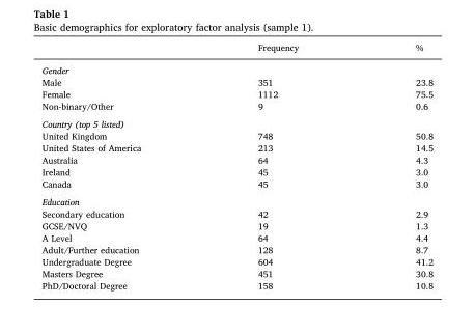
<table><thead><tr><td></td><td>Frequency</td><td>%</td></tr></thead><tbody><tr><td colspan="3">Gender</td></tr><tr><td>Male</td><td>351</td><td>23.8</td></tr><tr><td>Female</td><td>1112</td><td>75.5</td></tr><tr><td>Non-binary/Other</td><td>9</td><td>0.6</td></tr><tr><td colspan="3">Country (top 5 listed)</td></tr><tr><td>United Kingdom</td><td>748</td><td>50.8</td></tr><tr><td>United States of America</td><td>213</td><td>14.5</td></tr><tr><td>Australia</td><td>64</td><td>4.3</td></tr><tr><td>Ireland</td><td>45</td><td>3.0</td></tr><tr><td>Canada</td><td>45</td><td>3.0</td></tr><tr><td colspan="3">Education</td></tr><tr><td>Secondary education</td><td>42</td><td>2.9</td></tr><tr><td>GCSE/NVQ</td><td>19</td><td>1.3</td></tr><tr><td>A Level</td><td>64</td><td>4.4</td></tr><tr><td>Adult/Further education</td><td>128</td><td>8.7</td></tr><tr><td>Undergraduate Degree</td><td>604</td><td>41.2</td></tr><tr><td>Masters Degree</td><td>451</td><td>30.8</td></tr><tr><td>PhD/Doctoral Degree</td><td>158</td><td>10.8</td></tr></tbody></table>